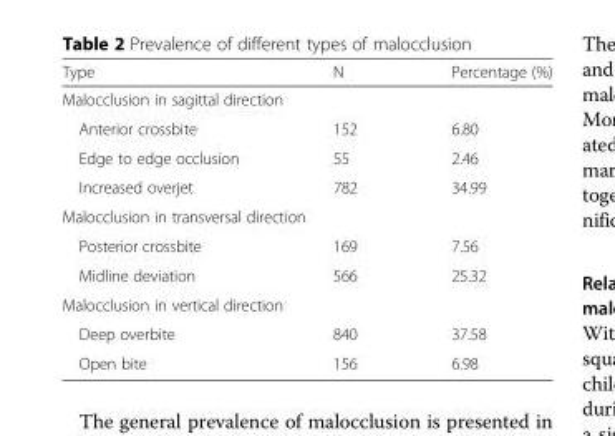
<table><thead><tr><td>Type</td><td>N</td><td>Percentage (%)</td></tr></thead><tbody><tr><td colspan="3">Malocclusion in sagittal direction</td></tr><tr><td>Anterior crossbite</td><td>152</td><td>6.80</td></tr><tr><td>Edge to edge occlusion</td><td>55</td><td>2.46</td></tr><tr><td>Increased overjet</td><td>782</td><td>34.99</td></tr><tr><td colspan="3">Malocclusion in transversal direction</td></tr><tr><td>Posterior crossbite</td><td>169</td><td>7.56</td></tr><tr><td>Midline deviation</td><td>566</td><td>25.32</td></tr><tr><td colspan="3">Malocclusion in vertical direction</td></tr><tr><td>Deep overbite</td><td>840</td><td>37.58</td></tr><tr><td>Open bite</td><td>156</td><td>6.98</td></tr></tbody></table>